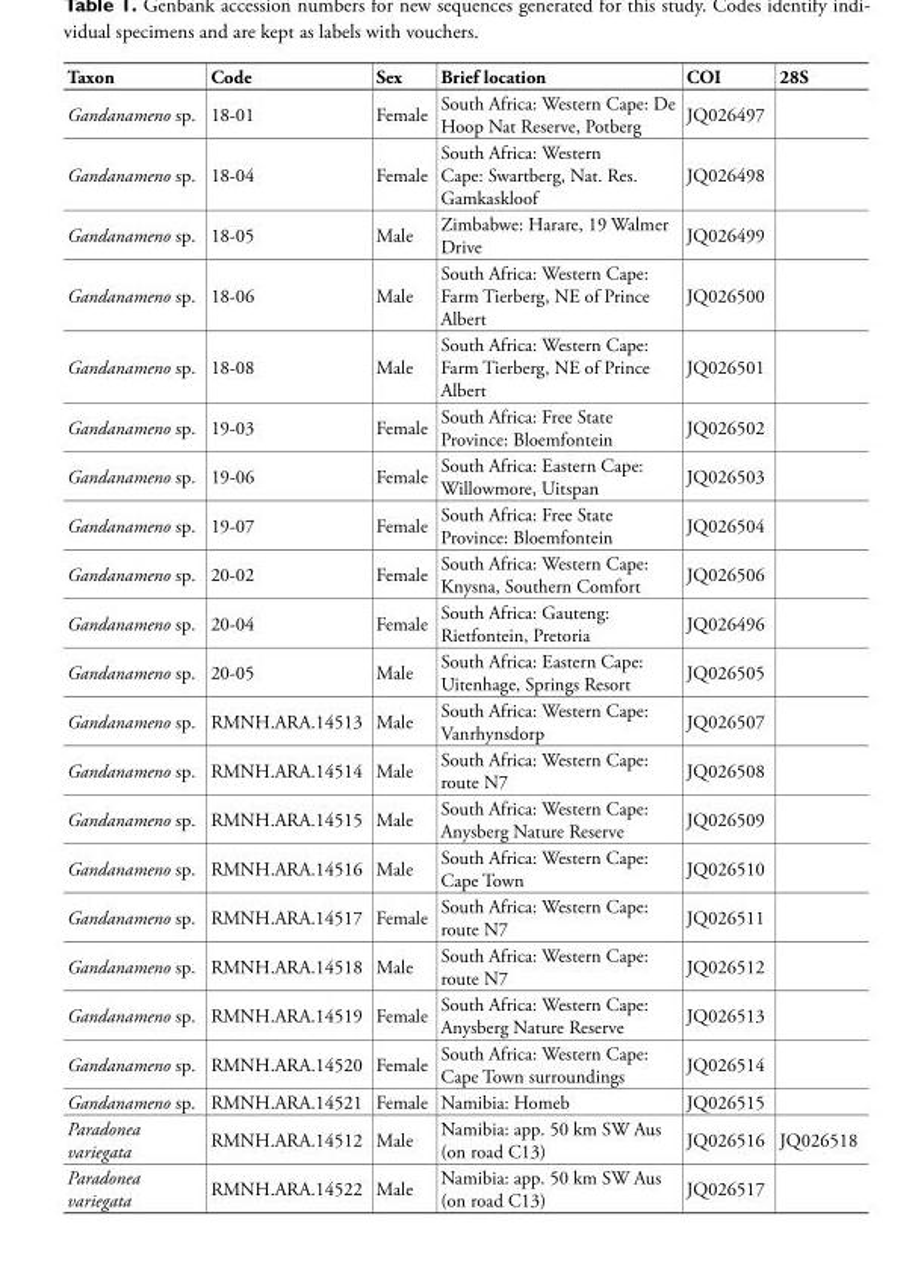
<table><thead><tr><td>Taxon</td><td>Code</td><td>Sex</td><td>Brief location</td><td>COI</td><td>28S</td></tr></thead><tbody><tr><td>Gandanameno sp.</td><td>18-01</td><td>Female</td><td>South Africa: Western Cape: De Hoop Nat Reserve, Potberg</td><td>JQ026497</td><td></td></tr><tr><td>Gandanameno sp.</td><td>18-04</td><td>Female</td><td>South Africa: Western Cape: Swartberg, Nat. Res. Gamkaskloof</td><td>JQ026498</td><td></td></tr><tr><td>Gandanameno sp.</td><td>18-05</td><td>Male</td><td>Zimbabwe: Harare, 19 Walmer Drive</td><td>JQ026499</td><td></td></tr><tr><td>Gandanameno sp.</td><td>18-06</td><td>Male</td><td>South Africa: Western Cape: Farm Tierberg, NE of Prince Albert</td><td>JQ026500</td><td></td></tr><tr><td>Gandanameno sp.</td><td>18-08</td><td>Male</td><td>South Africa: Western Cape: Farm Tierberg, NE of Prince Albert</td><td>JQ026501</td><td></td></tr><tr><td>Gandanameno sp.</td><td>19-03</td><td>Female</td><td>South Africa: Free State Province: Bloemfontein</td><td>JQ026502</td><td></td></tr><tr><td>Gandanameno sp.</td><td>19-06</td><td>Female</td><td>South Africa: Eastern Cape: Willowmore, Uitspan</td><td>JQ026503</td><td></td></tr><tr><td>Gandanameno sp.</td><td>19-07</td><td>Female</td><td>South Africa: Free State Province: Bloemfontein</td><td>JQ026504</td><td></td></tr><tr><td>Gandanameno sp.</td><td>20-02</td><td>Female</td><td>South Africa: Western Cape: Knysna, Southern Comfort</td><td>JQ026506</td><td></td></tr><tr><td>Gandanameno sp.</td><td>20-04</td><td>Female</td><td>South Africa: Gauteng: Rietfontein, Pretoria</td><td>JQ026496</td><td></td></tr><tr><td>Gandanameno sp.</td><td>20-05</td><td>Male</td><td>South Africa: Eastern Cape: Uitenhage, Springs Resort</td><td>JQ026505</td><td></td></tr><tr><td>Gandanameno sp.</td><td>RMNH.ARA.14513</td><td>Male</td><td>South Africa: Western Cape: Vanrhynsdorp</td><td>JQ026507</td><td></td></tr><tr><td>Gandanameno sp.</td><td>RMNH.ARA.14514</td><td>Male</td><td>South Africa: Western Cape: route N7</td><td>JQ026508</td><td></td></tr><tr><td>Gandanameno sp.</td><td>RMNH.ARA.14515</td><td>Male</td><td>South Africa: Western Cape: Anysberg Nature Reserve</td><td>JQ026509</td><td></td></tr><tr><td>Gandanameno sp.</td><td>RMNH.ARA.14516</td><td>Male</td><td>South Africa: Western Cape: Cape Town</td><td>JQ026510</td><td></td></tr><tr><td>Gandanameno sp.</td><td>RMNH.ARA.14517</td><td>Female</td><td>South Africa: Western Cape: route N7</td><td>JQ026511</td><td></td></tr><tr><td>Gandanameno sp.</td><td>RMNH.ARA.14518</td><td>Male</td><td>South Africa: Western Cape: route N7</td><td>JQ026512</td><td></td></tr><tr><td>Gandanameno sp.</td><td>RMNH.ARA.14519</td><td>Female</td><td>South Africa: Western Cape: Anysberg Nature Reserve</td><td>JQ026513</td><td></td></tr><tr><td>Gandanameno sp.</td><td>RMNH.ARA.14520</td><td>Female</td><td>South Africa: Western Cape: Cape Town surroundings</td><td>JQ026514</td><td></td></tr><tr><td>Gandanameno sp.</td><td>RMNH.ARA.14521</td><td>Female</td><td>Namibia: Homeb</td><td>JQ026515</td><td></td></tr><tr><td>Paradonea variegata</td><td>RMNH.ARA.14512</td><td>Male</td><td>Namibia: app. 50 km SW Aus (on road C13)</td><td>JQ026516</td><td>JQ026518</td></tr><tr><td>Paradonea variegata</td><td>RMNH.ARA.14522</td><td>Male</td><td>Namibia: app. 50 km SW Aus (on road C13)</td><td>JQ026517</td><td></td></tr></tbody></table>